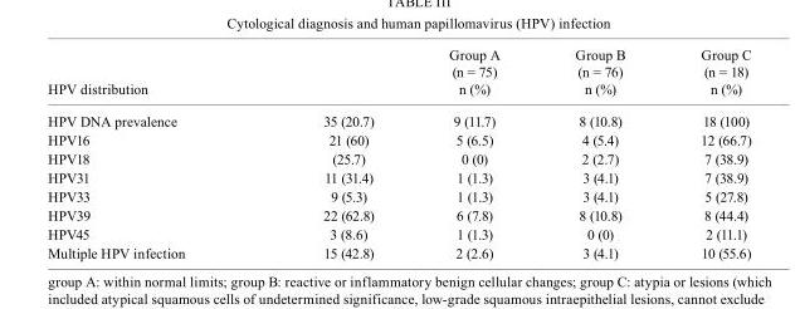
<table><thead><tr><td colspan="2">HPV distribution</td><td rowspan="2">Group A (n = 75) n (%) 9 (11.7)</td><td rowspan="2">Group B (n = 76) n (%) 8 (10.8)</td><td rowspan="2">Group C (n = 18) n (%) 18 (100)</td></tr><tr><td>HPV DNA prevalence</td><td>35 (20.7)</td></tr></thead><tbody><tr><td>HPV16</td><td>21 (60)</td><td>5 (6.5)</td><td>4 (5.4)</td><td>12 (66.7)</td></tr><tr><td>HPV18</td><td>(25.7)</td><td>0 (0)</td><td>2 (2.7)</td><td>7 (38.9)</td></tr><tr><td>HPV31</td><td>11 (31.4)</td><td>1 (1.3)</td><td>3 (4.1)</td><td>7 (38.9)</td></tr><tr><td>HPV33</td><td>9 (5.3)</td><td>1 (1.3)</td><td>3 (4.1)</td><td>5 (27.8)</td></tr><tr><td>HPV39</td><td>22 (62.8)</td><td>6 (7.8)</td><td>8 (10.8)</td><td>8 (44.4)</td></tr><tr><td>HPV45</td><td>3 (8.6)</td><td>1 (1.3)</td><td>0 (0)</td><td>2 (11.1)</td></tr><tr><td>Multiple HPV infection</td><td>15 (42.8)</td><td>2 (2.6)</td><td>3 (4.1)</td><td>10 (55.6)</td></tr></tbody></table>